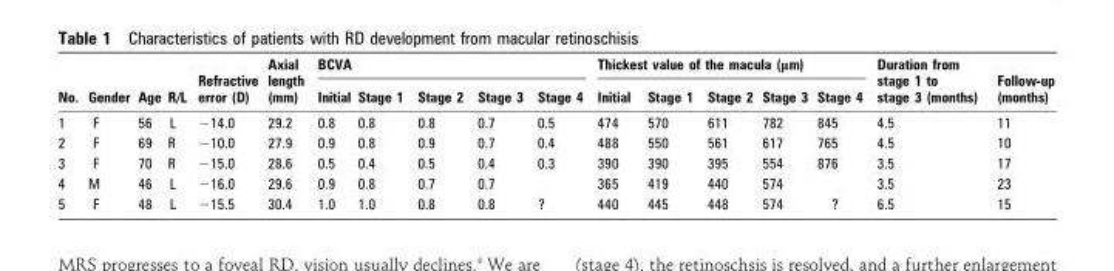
<table><thead><tr><td rowspan="2">No.</td><td rowspan="2">Gender</td><td rowspan="2">Age</td><td rowspan="2">R/L</td><td rowspan="2">Refractive error (D)</td><td rowspan="2">Axial length (mm)</td><td colspan="5">BCVA</td><td colspan="5">Thickest value of the macula (μm)</td><td rowspan="2">Duration from stage 1 to stage 3 (months)</td><td rowspan="2">Follow-up (months)</td></tr><tr><td>Initial</td><td>Stage 1</td><td>Stage 2</td><td>Stage 3</td><td>Stage 4</td><td>Initial</td><td>Stage 1</td><td>Stage 2</td><td>Stage 3</td><td>Stage 4</td></tr></thead><tbody><tr><td>1</td><td>F</td><td>56</td><td>L</td><td>−14.0</td><td>29.2</td><td>0.8</td><td>0.8</td><td>0.8</td><td>0.7</td><td>0.5</td><td>474</td><td>570</td><td>611</td><td>782</td><td>845</td><td>4.5</td><td>11</td></tr><tr><td>2</td><td>F</td><td>69</td><td>R</td><td>−10.0</td><td>27.9</td><td>0.9</td><td>0.8</td><td>0.9</td><td>0.7</td><td>0.4</td><td>488</td><td>550</td><td>561</td><td>617</td><td>765</td><td>4.5</td><td>10</td></tr><tr><td>3</td><td>F</td><td>70</td><td>R</td><td>−15.0</td><td>28.6</td><td>0.5</td><td>0.4</td><td>0.5</td><td>0.4</td><td>0.3</td><td>390</td><td>390</td><td>395</td><td>554</td><td>876</td><td>3.5</td><td>17</td></tr><tr><td>4</td><td>M</td><td>46</td><td>L</td><td>−16.0</td><td>29.6</td><td>0.9</td><td>0.8</td><td>0.7</td><td>0.7</td><td></td><td>365</td><td>419</td><td>440</td><td>574</td><td></td><td>3.5</td><td>23</td></tr><tr><td>5</td><td>F</td><td>48</td><td>L</td><td>−15.5</td><td>30.4</td><td>1.0</td><td>1.0</td><td>0.8</td><td>0.8</td><td>?</td><td>440</td><td>445</td><td>448</td><td>574</td><td>?</td><td>6.5</td><td>15</td></tr></tbody></table>